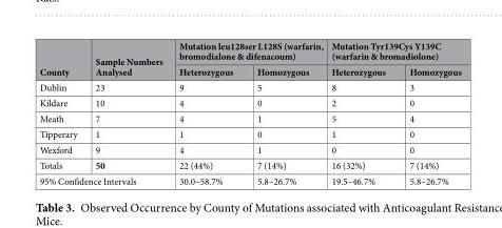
<table><thead><tr><td rowspan="2">County</td><td rowspan="2">Sample Numbers Analysed</td><td colspan="2">Mutation leu128ser L128S (warfarin, bromodialone &amp; difenacoum)</td><td colspan="2">Mutation Tyr139Cys Y139C (warfarin &amp; bromadiolone)</td></tr><tr><td>Heterozygous</td><td>Homozygous</td><td>Heterozygous</td><td>Homozygous</td></tr></thead><tbody><tr><td>Dublin</td><td>23</td><td>9</td><td>5</td><td>8</td><td>3</td></tr><tr><td>Kildare</td><td>10</td><td>4</td><td>0</td><td>2</td><td>0</td></tr><tr><td>Meath</td><td>7</td><td>4</td><td>1</td><td>5</td><td>4</td></tr><tr><td>Tipperary</td><td>1</td><td>1</td><td>0</td><td>1</td><td>0</td></tr><tr><td>Wexford</td><td>9</td><td>4</td><td>1</td><td>0</td><td>0</td></tr><tr><td>Totals</td><td>50</td><td>22 (44%)</td><td>7 (14%)</td><td>16 (32%)</td><td>7 (14%)</td></tr><tr><td colspan="2">95% Confidence Intervals</td><td>30.0–58.7%</td><td>5.8–26.7%</td><td>19.5–46.7%</td><td>5.8–26.7%</td></tr></tbody></table>